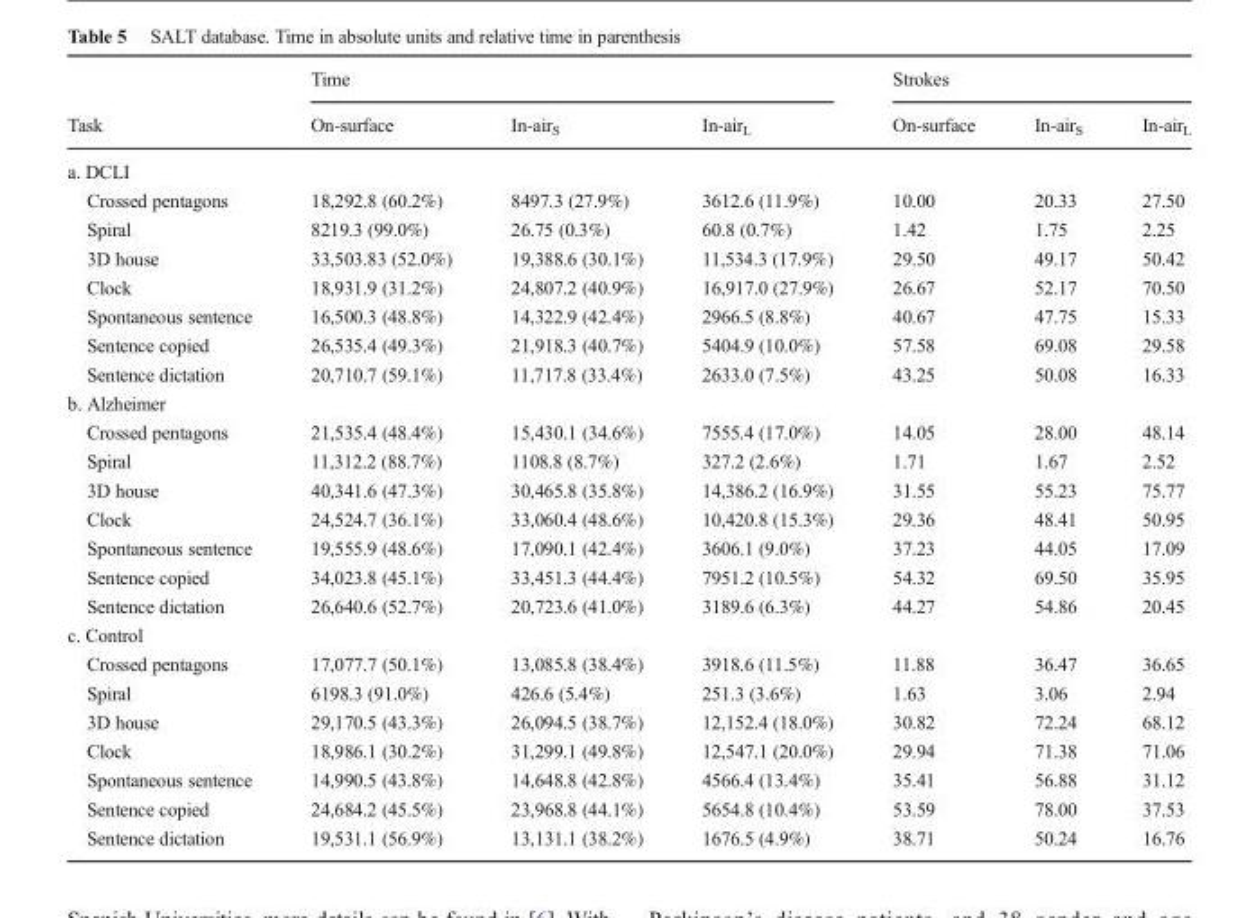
<table><thead><tr><td rowspan="2">Task</td><td colspan="3">Time</td><td colspan="3">Strokes</td></tr><tr><td>On-surface</td><td>In-air<sub>S</sub></td><td>In-air<sub>L</sub></td><td>On-surface</td><td>In-air<sub>S</sub></td><td>In-air<sub>L</sub></td></tr></thead><tbody><tr><td colspan="7">a. DCLI</td></tr><tr><td>Crossed pentagons</td><td>18,292.8 (60.2%)</td><td>8497.3 (27.9%)</td><td>3612.6 (11.9%)</td><td>10.00</td><td>20.33</td><td>27.50</td></tr><tr><td>Spiral</td><td>8219.3 (99.0%)</td><td>26.75 (0.3%)</td><td>60.8 (0.7%)</td><td>1.42</td><td>1.75</td><td>2.25</td></tr><tr><td>3D house</td><td>33,503.83 (52.0%)</td><td>19,388.6 (30.1%)</td><td>11,534.3 (17.9%)</td><td>29.50</td><td>49.17</td><td>50.42</td></tr><tr><td>Clock</td><td>18,931.9 (31.2%)</td><td>24,807.2 (40.9%)</td><td>16,917.0 (27.9%)</td><td>26.67</td><td>52.17</td><td>70.50</td></tr><tr><td>Spontaneous sentence</td><td>16,500.3 (48.8%)</td><td>14,322.9 (42.4%)</td><td>2966.5 (8.8%)</td><td>40.67</td><td>47.75</td><td>15.33</td></tr><tr><td>Sentence copied</td><td>26,535.4 (49.3%)</td><td>21,918.3 (40.7%)</td><td>5404.9 (10.0%)</td><td>57.58</td><td>69.08</td><td>29.58</td></tr><tr><td>Sentence dictation</td><td>20,710.7 (59.1%)</td><td>11,717.8 (33.4%)</td><td>2633.0 (7.5%)</td><td>43.25</td><td>50.08</td><td>16.33</td></tr><tr><td colspan="7">b. Alzheimer</td></tr><tr><td>Crossed pentagons</td><td>21,535.4 (48.4%)</td><td>15,430.1 (34.6%)</td><td>7555.4 (17.0%)</td><td>14.05</td><td>28.00</td><td>48.14</td></tr><tr><td>Spiral</td><td>11,312.2 (88.7%)</td><td>1108.8 (8.7%)</td><td>327.2 (2.6%)</td><td>1.71</td><td>1.67</td><td>2.52</td></tr><tr><td>3D house</td><td>40,341.6 (47.3%)</td><td>30,465.8 (35.8%)</td><td>14,386.2 (16.9%)</td><td>31.55</td><td>55.23</td><td>75.77</td></tr><tr><td>Clock</td><td>24,524.7 (36.1%)</td><td>33,060.4 (48.6%)</td><td>10,420.8 (15.3%)</td><td>29.36</td><td>48.41</td><td>50.95</td></tr><tr><td>Spontaneous sentence</td><td>19,555.9 (48.6%)</td><td>17,090.1 (42.4%)</td><td>3606.1 (9.0%)</td><td>37.23</td><td>44.05</td><td>17.09</td></tr><tr><td>Sentence copied</td><td>34,023.8 (45.1%)</td><td>33,451.3 (44.4%)</td><td>7951.2 (10.5%)</td><td>54.32</td><td>69.50</td><td>35.95</td></tr><tr><td>Sentence dictation</td><td>26,640.6 (52.7%)</td><td>20,723.6 (41.0%)</td><td>3189.6 (6.3%)</td><td>44.27</td><td>54.86</td><td>20.45</td></tr><tr><td colspan="7">c. Control</td></tr><tr><td>Crossed pentagons</td><td>17,077.7 (50.1%)</td><td>13,085.8 (38.4%)</td><td>3918.6 (11.5%)</td><td>11.88</td><td>36.47</td><td>36.65</td></tr><tr><td>Spiral</td><td>6198.3 (91.0%)</td><td>426.6 (5.4%)</td><td>251.3 (3.6%)</td><td>1.63</td><td>3.06</td><td>2.94</td></tr><tr><td>3D house</td><td>29,170.5 (43.3%)</td><td>26,094.5 (38.7%)</td><td>12,152.4 (18.0%)</td><td>30.82</td><td>72.24</td><td>68.12</td></tr><tr><td>Clock</td><td>18,986.1 (30.2%)</td><td>31,299.1 (49.8%)</td><td>12,547.1 (20.0%)</td><td>29.94</td><td>71.38</td><td>71.06</td></tr><tr><td>Spontaneous sentence</td><td>14,990.5 (43.8%)</td><td>14,648.8 (42.8%)</td><td>4566.4 (13.4%)</td><td>35.41</td><td>56.88</td><td>31.12</td></tr><tr><td>Sentence copied</td><td>24,684.2 (45.5%)</td><td>23,968.8 (44.1%)</td><td>5654.8 (10.4%)</td><td>53.59</td><td>78.00</td><td>37.53</td></tr><tr><td>Sentence dictation</td><td>19,531.1 (56.9%)</td><td>13,131.1 (38.2%)</td><td>1676.5 (4.9%)</td><td>38.71</td><td>50.24</td><td>16.76</td></tr></tbody></table>